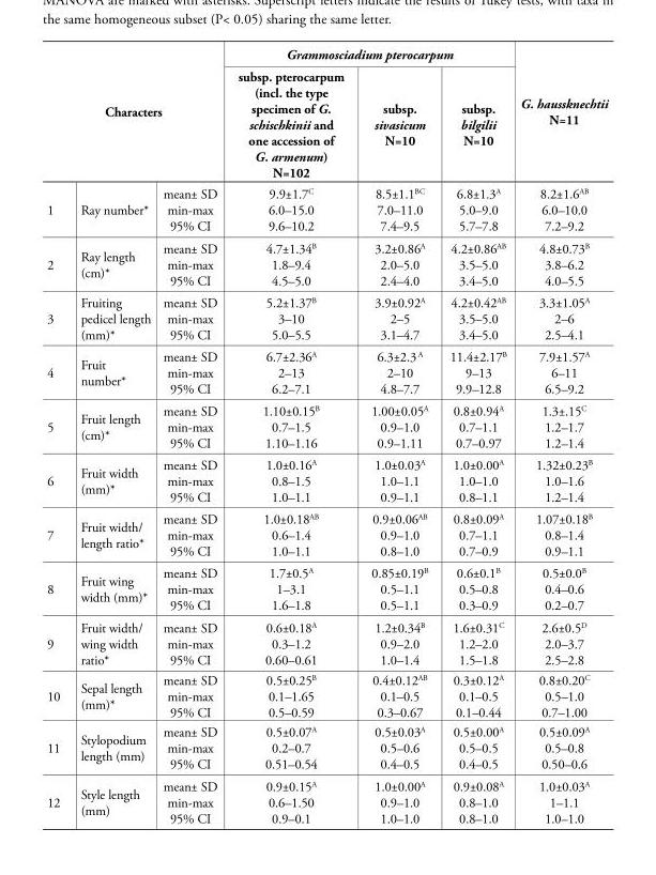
<table><thead><tr><td rowspan="2" colspan="3">Characters</td><td colspan="3">Grammosciadium pterocarpum</td><td rowspan="3">G. haussknechtii N=11 8.2±1.6AB 6.0–10.0 7.2–9.2</td></tr><tr><td rowspan="2">subsp. pterocarpum (incl. the type specimen of G. schischkinii and one accession of G. armenum) N=102 9.9±1.7C 6.0–15.0 9.6–10.2</td><td rowspan="2">subsp. sivasicum N=10 8.5±1.1<sup>BC</sup> 7.0–11.0 7.4–9.5</td><td rowspan="2">subsp. bilgilii N=10 6.8±1.3<sup>A</sup> 5.0–9.0 5.7–7.8</td></tr><tr><td>1</td><td>Ray number*</td><td>mean± SD min-max 95% CI</td></tr></thead><tbody><tr><td>2</td><td>Ray length (cm)*</td><td>mean± SD min-max 95% CI</td><td>4.7±1.34<sup>B</sup> 1.8–9.4 4.5–5.0</td><td>3.2±0.86<sup>A</sup> 2.0–5.0 2.4–4.0</td><td>4.2±0.86<sup>AB</sup> 3.5–5.0 3.4–5.0</td><td>4.8±0.73<sup>B</sup> 3.8–6.2 4.0–5.5</td></tr><tr><td>3</td><td>Fruiting pedicel length (mm)*</td><td>mean± SD min-max 95% CI</td><td>5.2±1.37<sup>B</sup> 3–10 5.0–5.5</td><td>3.9±0.92<sup>A</sup> 2–5 3.1–4.7</td><td>4.2±0.42<sup>AB</sup> 3.5–5.0 3.4–5.0</td><td>3.3±1.05<sup>A</sup> 2–6 2.5–4.1</td></tr><tr><td>4</td><td>Fruit number*</td><td>mean± SD min-max 95% CI</td><td>6.7±2.36<sup>A</sup> 2–13 6.2–7.1</td><td>6.3±2.3 <sup>A</sup> 2–10 4.8–7.7</td><td>11.4±2.17<sup>B</sup> 9–13 9.9–12.8</td><td>7.9±1.57<sup>A</sup> 6–11 6.5–9.2</td></tr><tr><td>5</td><td>Fruit length (cm)*</td><td>mean± SD min-max 95% CI</td><td>1.10±0.15<sup>B</sup> 0.7–1.5 1.10–1.16</td><td>1.00±0.05<sup>A</sup> 0.9–1.0 0.9–1.11</td><td>0.8±0.94<sup>A</sup> 0.7–1.1 0.7–0.97</td><td>1.3±.15<sup>C</sup> 1.2–1.7 1.2–1.4</td></tr><tr><td>6</td><td>Fruit width (mm)*</td><td>mean± SD min-max 95% CI</td><td>1.0±0.16<sup>A</sup> 0.8–1.5 1.0–1.1</td><td>1.0±0.03<sup>A</sup> 1.0–1.1 0.9–1.1</td><td>1.0±0.00<sup>A</sup> 1.0–1.0 0.8–1.1</td><td>1.32±0.23<sup>B</sup> 1.0–1.6 1.2–1.4</td></tr><tr><td>7</td><td>Fruit width/ length ratio*</td><td>mean± SD min-max 95% CI</td><td>1.0±0.18<sup>AB</sup> 0.6–1.4 1.0–1.1</td><td>0.9±0.06<sup>AB</sup> 0.9–1.0 0.8–1.0</td><td>0.8±0.09<sup>A</sup> 0.7–1.1 0.7–0.9</td><td>1.07±0.18<sup>B</sup> 0.8–1.4 0.9–1.1</td></tr><tr><td>8</td><td>Fruit wing width (mm)*</td><td>mean± SD min-max 95% CI</td><td>1.7±0.5<sup>A</sup> 1–3.1 1.6–1.8</td><td>0.85±0.19<sup>B</sup> 0.5–1.1 0.5–1.1</td><td>0.6±0.1<sup>B</sup> 0.5–0.8 0.3–0.9</td><td>0.5±0.0<sup>B</sup> 0.4–0.6 0.2–0.7</td></tr><tr><td>9</td><td>Fruit width/ wing width ratio*</td><td>mean± SD min-max 95% CI</td><td>0.6±0.18<sup>A</sup> 0.3–1.2 0.60–0.61</td><td>1.2±0.34<sup>B</sup> 0.9–2.0 1.0–1.4</td><td>1.6±0.31<sup>C</sup> 1.2–2.0 1.5–1.8</td><td>2.6±0.5<sup>D</sup> 2.0–3.7 2.5–2.8</td></tr><tr><td>10</td><td>Sepal length (mm)*</td><td>mean± SD min-max 95% CI</td><td>0.5±0.25<sup>B</sup> 0.1–1.65 0.5–0.59</td><td>0.4±0.12<sup>AB</sup> 0.1–0.5 0.3–0.67</td><td>0.3±0.12<sup>A</sup> 0.1–0.5 0.1–0.44</td><td>0.8±0.20<sup>C</sup> 0.5–1.0 0.7–1.00</td></tr><tr><td>11</td><td>Stylopodium length (mm)</td><td>mean± SD min-max 95% CI</td><td>0.5±0.07<sup>A</sup> 0.2–0.7 0.51–0.54</td><td>0.5±0.03<sup>A</sup> 0.5–0.6 0.4–0.5</td><td>0.5±0.00<sup>A</sup> 0.5–0.5 0.4–0.5</td><td>0.5±0.09<sup>A</sup> 0.5–0.8 0.50–0.6</td></tr><tr><td>12</td><td>Style length (mm)</td><td>mean± SD min-max 95% CI</td><td>0.9±0.15<sup>A</sup> 0.6–1.50 0.9–0.1</td><td>1.0±0.00<sup>A</sup> 0.9–1.0 1.0–1.0</td><td>0.9±0.08<sup>A</sup> 0.8–1.0 0.8–1.0</td><td>1.0±0.03<sup>A</sup> 1–1.1 1.0–1.0</td></tr></tbody></table>